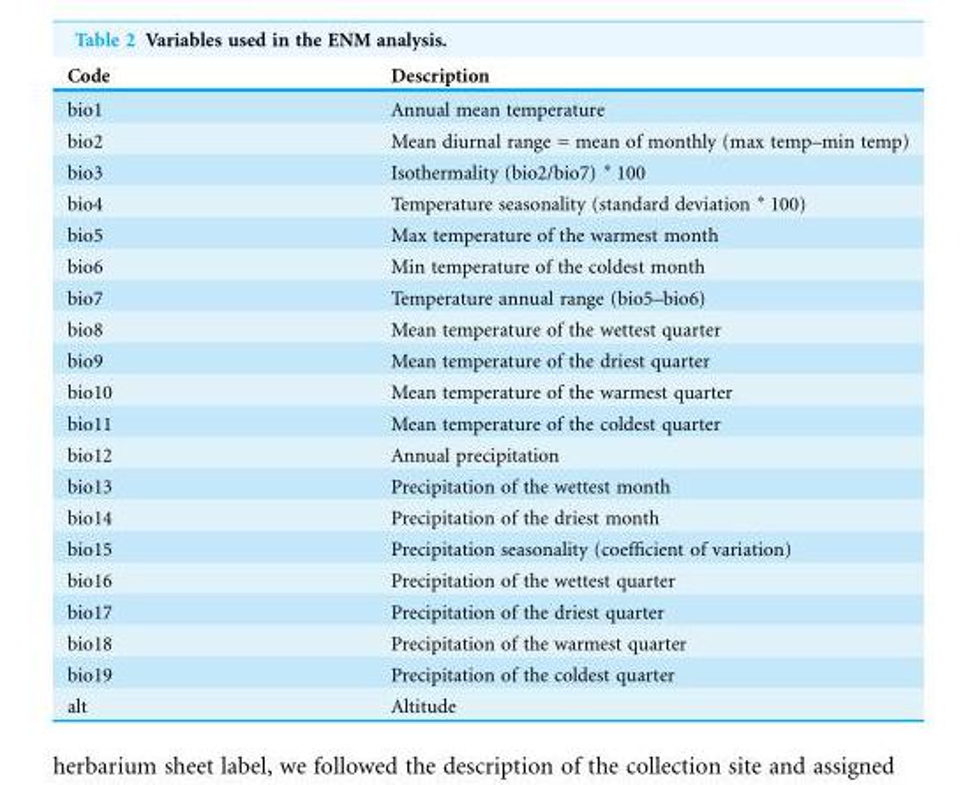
<table><thead><tr><td>Code</td><td>Description</td></tr></thead><tbody><tr><td>bio1</td><td>Annual mean temperature</td></tr><tr><td>bio2</td><td>Mean diurnal range = mean of monthly (max temp–min temp)</td></tr><tr><td>bio3</td><td>Isothermality (bio2/bio7) * 100</td></tr><tr><td>bio4</td><td>Temperature seasonality (standard deviation * 100)</td></tr><tr><td>bio5</td><td>Max temperature of the warmest month</td></tr><tr><td>bio6</td><td>Min temperature of the coldest month</td></tr><tr><td>bio7</td><td>Temperature annual range (bio5–bio6)</td></tr><tr><td>bio8</td><td>Mean temperature of the wettest quarter</td></tr><tr><td>bio9</td><td>Mean temperature of the driest quarter</td></tr><tr><td>bio10</td><td>Mean temperature of the warmest quarter</td></tr><tr><td>bio11</td><td>Mean temperature of the coldest quarter</td></tr><tr><td>bio12</td><td>Annual precipitation</td></tr><tr><td>bio13</td><td>Precipitation of the wettest month</td></tr><tr><td>bio14</td><td>Precipitation of the driest month</td></tr><tr><td>bio15</td><td>Precipitation seasonality (coefficient of variation)</td></tr><tr><td>bio16</td><td>Precipitation of the wettest quarter</td></tr><tr><td>bio17</td><td>Precipitation of the driest quarter</td></tr><tr><td>bio18</td><td>Precipitation of the warmest quarter</td></tr><tr><td>bio19</td><td>Precipitation of the coldest quarter</td></tr><tr><td>alt</td><td>Altitude</td></tr></tbody></table>